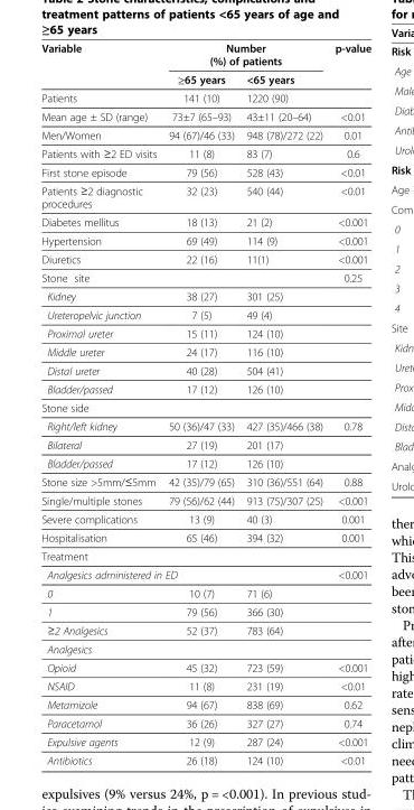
<table><thead><tr><td rowspan="2">Variable</td><td colspan="2">Number (%) of patients</td><td rowspan="2">p-value</td></tr><tr><td>≥65 years</td><td>&lt;65 years</td></tr></thead><tbody><tr><td>Patients</td><td>141 (10)</td><td>1220 (90)</td><td></td></tr><tr><td>Mean age ± SD (range)</td><td>73±7 (65–93)</td><td>43±11 (20–64)</td><td>&lt;0.01</td></tr><tr><td>Men/Women</td><td>94 (67)/46 (33)</td><td>948 (78)/272 (22)</td><td>0.01</td></tr><tr><td>Patients with ≥2 ED visits</td><td>11 (8)</td><td>83 (7)</td><td>0.6</td></tr><tr><td>First stone episode</td><td>79 (56)</td><td>528 (43)</td><td>&lt;0.01</td></tr><tr><td>Patients ≥2 diagnostic procedures</td><td>32 (23)</td><td>540 (44)</td><td>&lt;0.01</td></tr><tr><td>Diabetes mellitus</td><td>18 (13)</td><td>21 (2)</td><td>&lt;0.001</td></tr><tr><td>Hypertension</td><td>69 (49)</td><td>114 (9)</td><td>&lt;0.001</td></tr><tr><td>Diuretics</td><td>22 (16)</td><td>11(1)</td><td>&lt;0.001</td></tr><tr><td colspan="3">Stone site</td><td>0.25</td></tr><tr><td>Kidney</td><td>38 (27)</td><td>301 (25)</td><td></td></tr><tr><td>Ureteropelvic junction</td><td>7 (5)</td><td>49 (4)</td><td></td></tr><tr><td>Proximal ureter</td><td>15 (11)</td><td>124 (10)</td><td></td></tr><tr><td>Middle ureter</td><td>24 (17)</td><td>116 (10)</td><td></td></tr><tr><td>Distal ureter</td><td>40 (28)</td><td>504 (41)</td><td></td></tr><tr><td>Bladder/passed</td><td>17 (12)</td><td>126 (10)</td><td></td></tr><tr><td colspan="4">Stone side</td></tr><tr><td>Right/left kidney</td><td>50 (36)/47 (33)</td><td>427 (35)/466 (38)</td><td>0.78</td></tr><tr><td>Bilateral</td><td>27 (19)</td><td>201 (17)</td><td></td></tr><tr><td>Bladder/passed</td><td>17 (12)</td><td>126 (10)</td><td></td></tr><tr><td>Stone size &gt;5mm/≤5mm</td><td>42 (35)/79 (65)</td><td>310 (36)/551 (64)</td><td>0.88</td></tr><tr><td>Single/multiple stones</td><td>79 (56)/62 (44)</td><td>913 (75)/307 (25)</td><td>&lt;0.001</td></tr><tr><td>Severe complications</td><td>13 (9)</td><td>40 (3)</td><td>0.001</td></tr><tr><td>Hospitalisation</td><td>65 (46)</td><td>394 (32)</td><td>0.001</td></tr><tr><td colspan="4">Treatment</td></tr><tr><td colspan="3">Analgesics administered in ED</td><td>&lt;0.001</td></tr><tr><td>0</td><td>10 (7)</td><td>71 (6)</td><td></td></tr><tr><td>1</td><td>79 (56)</td><td>366 (30)</td><td></td></tr><tr><td>≥2 Analgesics</td><td>52 (37)</td><td>783 (64)</td><td></td></tr><tr><td colspan="4">Analgesics</td></tr><tr><td>Opioid</td><td>45 (32)</td><td>723 (59)</td><td>&lt;0.001</td></tr><tr><td>NSAID</td><td>11 (8)</td><td>231 (19)</td><td>&lt;0.01</td></tr><tr><td>Metamizole</td><td>94 (67)</td><td>838 (69)</td><td>0.62</td></tr><tr><td>Paracetamol</td><td>36 (26)</td><td>327 (27)</td><td>0.74</td></tr><tr><td>Expulsive agents</td><td>12 (9)</td><td>287 (24)</td><td>&lt;0.001</td></tr><tr><td>Antibiotics</td><td>26 (18)</td><td>124 (10)</td><td>&lt;0.01</td></tr></tbody></table>